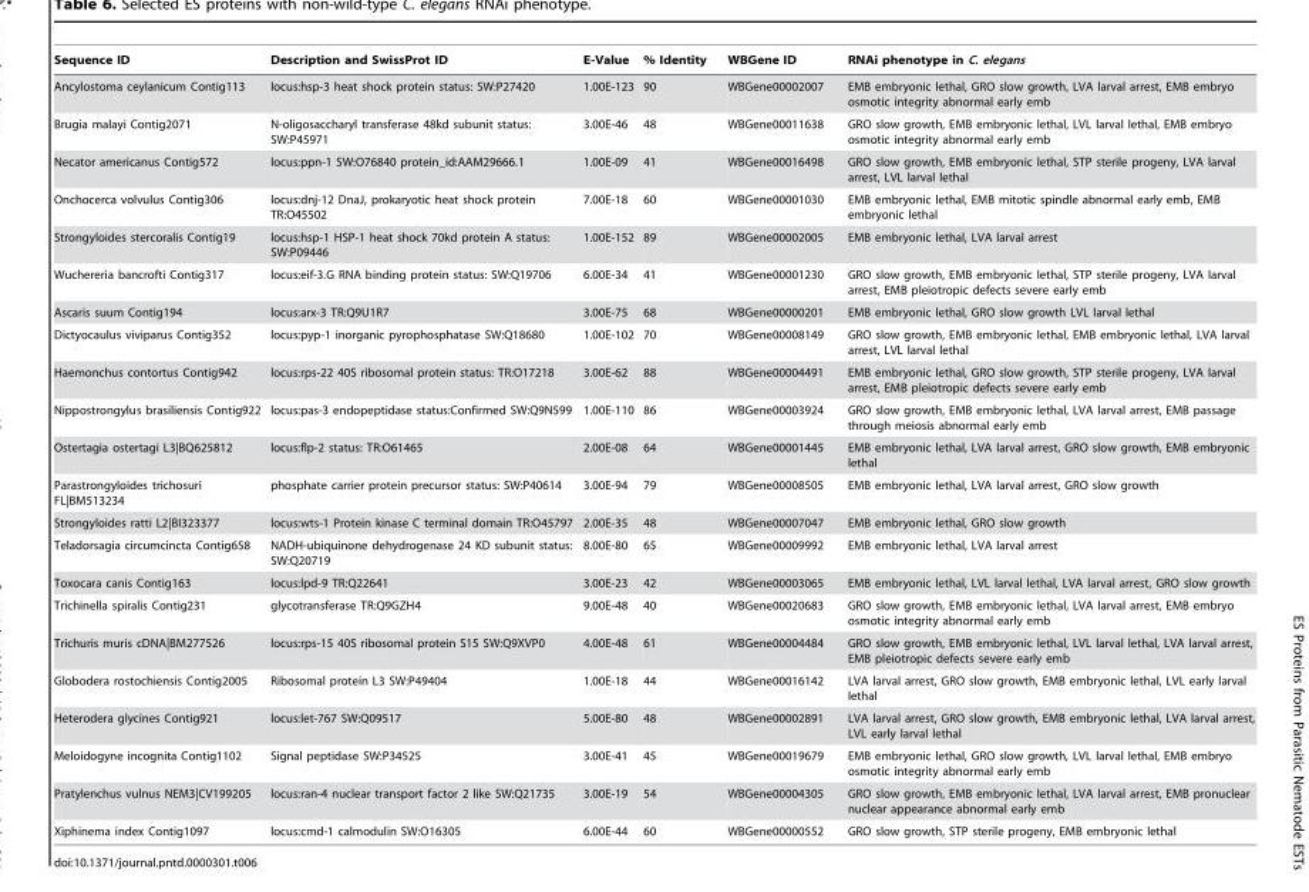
<table><thead><tr><td>Sequence ID</td><td>Description and SwissProt ID</td><td>E-Value</td><td>% Identity</td><td>WBGene ID</td><td>RNAi phenotype in C. elegans</td></tr></thead><tbody><tr><td>Ancylostoma ceylanicum Contig113</td><td>locus:hsp-3 heat shock protein status: SW:P27420</td><td>1.00E-123</td><td>90</td><td>WBGene00002007</td><td>EMB embryonic lethal, GRO slow growth, LVA larval arrest, EMB embryo osmotic integrity abnormal early emb</td></tr><tr><td>Brugia malayi Contig2071</td><td>N-oligosaccharyl transferase 48kd subunit status: SW:P45971</td><td>3.00E-46</td><td>48</td><td>WBGene00011638</td><td>GRO slow growth, EMB embryonic lethal, LVL larval lethal, EMB embryo osmotic integrity abnormal early emb</td></tr><tr><td>Necator americanus Contig572</td><td>locus:ppn-1 SW:O76840 protein_id:AAM29666.1</td><td>1.00E-09</td><td>41</td><td>WBGene00016498</td><td>GRO slow growth, EMB embryonic lethal, STP sterile progeny, LVA larval arrest, LVL larval lethal</td></tr><tr><td>Onchocerca volvulus Contig306</td><td>locus:dnj-12 DnaJ, prokaryotic heat shock protein TR:O45502</td><td>7.00E-18</td><td>60</td><td>WBGene00001030</td><td>EMB embryonic lethal, EMB mitotic spindle abnormal early emb, EMB embryonic lethal</td></tr><tr><td>Strongyloides stercoralis Contig19</td><td>locus:hsp-1 HSP-1 heat shock 70kd protein A status: SW:P09446</td><td>1.00E-152</td><td>89</td><td>WBGene00002005</td><td>EMB embryonic lethal, LVA larval arrest</td></tr><tr><td>Wuchereria bancrofti Contig317</td><td>locus:eif-3.G RNA binding protein status: SW:Q19706</td><td>6.00E-34</td><td>41</td><td>WBGene00001230</td><td>GRO slow growth, EMB embryonic lethal, STP sterile progeny, LVA larval arrest, EMB pleiotropic defects severe early emb</td></tr><tr><td>Ascaris suum Contig194</td><td>locus:arx-3 TR:Q9U1R7</td><td>3.00E-75</td><td>68</td><td>WBGene00000201</td><td>EMB embryonic lethal, GRO slow growth LVL larval lethal</td></tr><tr><td>Dictyocaulus viviparus Contig352</td><td>locus:pyp-1 inorganic pyrophosphatase SW:Q18680</td><td>1.00E-102</td><td>70</td><td>WBGene00008149</td><td>GRO slow growth, EMB embryonic lethal, EMB embryonic lethal, LVA larval arrest, LVL larval lethal</td></tr><tr><td>Haemonchus contortus Contig942</td><td>locus:rps-22 40S ribosomal protein status: TR:O17218</td><td>3.00E-62</td><td>88</td><td>WBGene00004491</td><td>EMB embryonic lethal, GRO slow growth, STP sterile progeny, LVA larval arrest, EMB pleiotropic defects severe early emb</td></tr><tr><td>Nippostrongylus brasiliensis Contig922</td><td>locus:pas-3 endopeptidase status:Confirmed SW:Q9N599</td><td>1.00E-110</td><td>86</td><td>WBGene00003924</td><td>GRO slow growth, EMB embryonic lethal, LVA larval arrest, EMB passage through meiosis abnormal early emb</td></tr><tr><td>Ostertagia ostertagi L3|BQ625812</td><td>locus:flp-2 status: TR:O61465</td><td>2.00E-08</td><td>64</td><td>WBGene00001445</td><td>EMB embryonic lethal, LVA larval arrest, GRO slow growth, EMB embryonic lethal</td></tr><tr><td>Parastrongyloides trichosuri FL|BM513234</td><td>phosphate carrier protein precursor status: SW:P40614</td><td>3.00E-94</td><td>79</td><td>WBGene00008505</td><td>EMB embryonic lethal, LVA larval arrest, GRO slow growth</td></tr><tr><td>Strongyloides ratti L2|BI323377</td><td>locus:wts-1 Protein kinase C terminal domain TR:O45797</td><td>2.00E-35</td><td>48</td><td>WBGene00007047</td><td>EMB embryonic lethal, GRO slow growth</td></tr><tr><td>Teladorsagia circumcincta Contig658</td><td>NADH-ubiquinone dehydrogenase 24 KD subunit status: SW:Q20719</td><td>8.00E-80</td><td>65</td><td>WBGene00009992</td><td>EMB embryonic lethal, LVA larval arrest</td></tr><tr><td>Toxocara canis Contig163</td><td>locus:lpd-9 TR:Q22641</td><td>3.00E-23</td><td>42</td><td>WBGene00003065</td><td>EMB embryonic lethal, LVL larval lethal, LVA larval arrest, GRO slow growth</td></tr><tr><td>Trichinella spiralis Contig231</td><td>glycotransferase TR:Q9GZH4</td><td>9.00E-48</td><td>40</td><td>WBGene00020683</td><td>GRO slow growth, EMB embryonic lethal, LVA larval arrest, EMB embryo osmotic integrity abnormal early emb</td></tr><tr><td>Trichuris muris cDNA|BM277526</td><td>locus:rps-15 40S ribosomal protein S15 SW:Q9XVP0</td><td>4.00E-48</td><td>61</td><td>WBGene00004484</td><td>GRO slow growth, EMB embryonic lethal, LVL larval lethal, LVA larval arrest, EMB pleiotropic defects severe early emb</td></tr><tr><td>Globodera rostochiensis Contig2005</td><td>Ribosomal protein L3 SW:P49404</td><td>1.00E-18</td><td>44</td><td>WBGene00016142</td><td>LVA larval arrest, GRO slow growth, EMB embryonic lethal, LVL early larval lethal</td></tr><tr><td>Heterodera glycines Contig921</td><td>locus:let-767 SW:Q09517</td><td>5.00E-80</td><td>48</td><td>WBGene00002891</td><td>LVA larval arrest, GRO slow growth, EMB embryonic lethal, LVA larval arrest, LVL early larval lethal</td></tr><tr><td>Meloidogyne incognita Contig1102</td><td>Signal peptidase SW:P34525</td><td>3.00E-41</td><td>45</td><td>WBGene00019679</td><td>EMB embryonic lethal, GRO slow growth, LVL larval lethal, EMB embryo osmotic integrity abnormal early emb</td></tr><tr><td>Pratylenchus vulnus NEM3|CV199205</td><td>locus:ran-4 nuclear transport factor 2 like SW:Q21735</td><td>3.00E-19</td><td>54</td><td>WBGene00004305</td><td>GRO slow growth, EMB embryonic lethal, LVA larval arrest, EMB pronuclear nuclear appearance abnormal early emb</td></tr><tr><td>Xiphinema index Contig1097</td><td>locus:cmd-1 calmodulin SW:O16305</td><td>6.00E-44</td><td>60</td><td>WBGene00000552</td><td>GRO slow growth, STP sterile progeny, EMB embryonic lethal</td></tr></tbody></table>